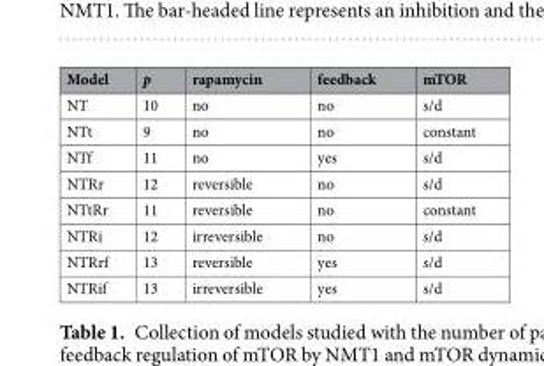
<table><thead><tr><td>Model</td><td>p</td><td>rapamycin</td><td>feedback</td><td>mTOR</td></tr></thead><tbody><tr><td>NT</td><td>10</td><td>no</td><td>no</td><td>s/d</td></tr><tr><td>NTt</td><td>9</td><td>no</td><td>no</td><td>constant</td></tr><tr><td>NTf</td><td>11</td><td>no</td><td>yes</td><td>s/d</td></tr><tr><td>NTRr</td><td>12</td><td>reversible</td><td>no</td><td>s/d</td></tr><tr><td>NTtRr</td><td>11</td><td>reversible</td><td>no</td><td>constant</td></tr><tr><td>NTRi</td><td>12</td><td>irreversible</td><td>no</td><td>s/d</td></tr><tr><td>NTRrf</td><td>13</td><td>reversible</td><td>yes</td><td>s/d</td></tr><tr><td>NTRif</td><td>13</td><td>irreversible</td><td>yes</td><td>s/d</td></tr></tbody></table>